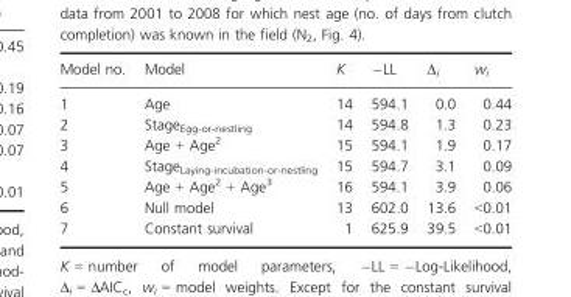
<table><thead><tr><td>Model no.</td><td>Model</td><td>K</td><td>−LL</td><td>Δ<sub>i</sub></td><td>w<sub>i</sub></td></tr></thead><tbody><tr><td>1</td><td>Age</td><td>14</td><td>594.1</td><td>0.0</td><td>0.44</td></tr><tr><td>2</td><td>Stage<sub>Egg-or-nestling</sub></td><td>14</td><td>594.8</td><td>1.3</td><td>0.23</td></tr><tr><td>3</td><td>Age + Age<sup>2</sup></td><td>15</td><td>594.1</td><td>1.9</td><td>0.17</td></tr><tr><td>4</td><td>Stage<sub>Laying-incubation-or-nestling</sub></td><td>15</td><td>594.7</td><td>3.1</td><td>0.09</td></tr><tr><td>5</td><td>Age + Age<sup>2</sup> + Age<sup>3</sup></td><td>16</td><td>594.1</td><td>3.9</td><td>0.06</td></tr><tr><td>6</td><td>Null model</td><td>13</td><td>602.0</td><td>13.6</td><td>&lt;0.01</td></tr><tr><td>7</td><td>Constant survival</td><td>1</td><td>625.9</td><td>39.5</td><td>&lt;0.01</td></tr></tbody></table>